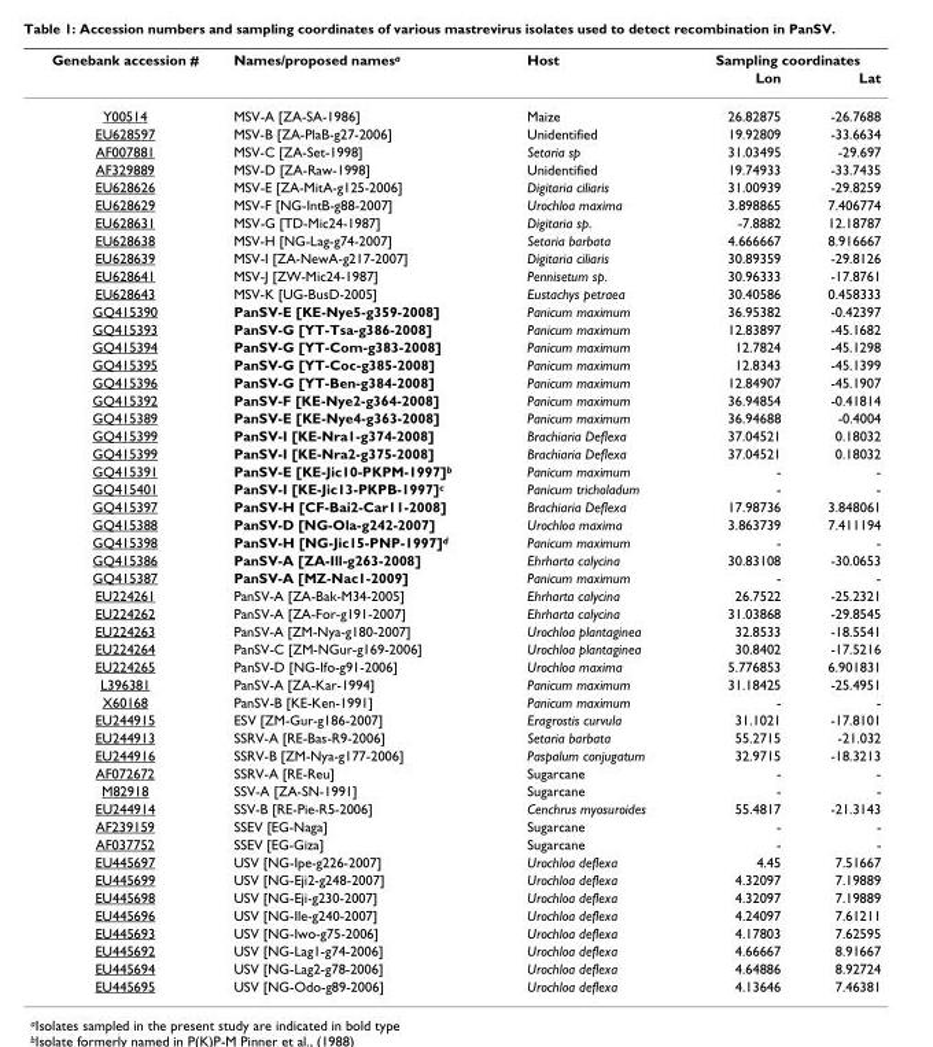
<table><thead><tr><td rowspan="2">Genebank accession #</td><td rowspan="2">Names/proposed names<sup>a</sup></td><td rowspan="2">Host</td><td colspan="2">Sampling coordinates</td></tr><tr><td>Lon</td><td>Lat</td></tr></thead><tbody><tr><td>Y00514</td><td>MSV-A [ZA-SA-1986]</td><td>Maize</td><td>26.82875</td><td>-26.7688</td></tr><tr><td>EU628597</td><td>MSV-B [ZA-PlaB-g27-2006]</td><td>Unidentified</td><td>19.92809</td><td>-33.6634</td></tr><tr><td>AF007881</td><td>MSV-C [ZA-Set-1998]</td><td>Setaria sp</td><td>31.03495</td><td>-29.697</td></tr><tr><td>AF329889</td><td>MSV-D [ZA-Raw-1998]</td><td>Unidentified</td><td>19.74933</td><td>-33.7435</td></tr><tr><td>EU628626</td><td>MSV-E [ZA-MitA-g125-2006]</td><td>Digitaria ciliaris</td><td>31.00939</td><td>-29.8259</td></tr><tr><td>EU628629</td><td>MSV-F [NG-IntB-g88-2007]</td><td>Urochloa maxima</td><td>3.898865</td><td>7.406774</td></tr><tr><td>EU628631</td><td>MSV-G [TD-Mic24-1987]</td><td>Digitaria sp.</td><td>-7.8882</td><td>12.18787</td></tr><tr><td>EU628638</td><td>MSV-H [NG-Lag-g74-2007]</td><td>Setaria barbata</td><td>4.666667</td><td>8.916667</td></tr><tr><td>EU628639</td><td>MSV-I [ZA-NewA-g217-2007]</td><td>Digitaria ciliaris</td><td>30.89359</td><td>-29.8126</td></tr><tr><td>EU628641</td><td>MSV-J [ZW-Mic24-1987]</td><td>Pennisetum sp.</td><td>30.96333</td><td>-17.8761</td></tr><tr><td>EU628643</td><td>MSV-K [UG-BusD-2005]</td><td>Eustachys petraea</td><td>30.40586</td><td>0.458333</td></tr><tr><td>GQ415390</td><td>PanSV-E [KE-Nye5-g359-2008]</td><td>Panicum maximum</td><td>36.95382</td><td>-0.42397</td></tr><tr><td>GQ415393</td><td>PanSV-G [YT-Tsa-g386-2008]</td><td>Panicum maximum</td><td>12.83897</td><td>-45.1682</td></tr><tr><td>GQ415394</td><td>PanSV-G [YT-Com-g383-2008]</td><td>Panicum maximum</td><td>12.7824</td><td>-45.1298</td></tr><tr><td>GQ415395</td><td>PanSV-G [YT-Coc-g385-2008]</td><td>Panicum maximum</td><td>12.8343</td><td>-45.1399</td></tr><tr><td>GQ415396</td><td>PanSV-G [YT-Ben-g384-2008]</td><td>Panicum maximum</td><td>12.84907</td><td>-45.1907</td></tr><tr><td>GQ415392</td><td>PanSV-F [KE-Nye2-g364-2008]</td><td>Panicum maximum</td><td>36.94854</td><td>-0.41814</td></tr><tr><td>GQ415389</td><td>PanSV-E [KE-Nye4-g363-2008]</td><td>Panicum maximum</td><td>36.94688</td><td>-0.4004</td></tr><tr><td>GQ415399</td><td>PanSV-I [KE-Nra1-g374-2008]</td><td>Brachiaria Deflexa</td><td>37.04521</td><td>0.18032</td></tr><tr><td>GQ415399</td><td>PanSV-I [KE-Nra2-g375-2008]</td><td>Brachiaria Deflexa</td><td>37.04521</td><td>0.18032</td></tr><tr><td>GQ415391</td><td>PanSV-E [KE-Jic10-PKPM-1997]<sup>b</sup></td><td>Panicum maximum</td><td>-</td><td>-</td></tr><tr><td>GQ415401</td><td>PanSV-I [KE-Jic13-PKPB-1997]<sup>c</sup></td><td>Panicum tricholadum</td><td>-</td><td>-</td></tr><tr><td>GQ415397</td><td>PanSV-H [CF-Bai2-Car11-2008]</td><td>Brachiaria Deflexa</td><td>17.98736</td><td>3.848061</td></tr><tr><td>GQ415388</td><td>PanSV-D [NG-Ola-g242-2007]</td><td>Urochloa maxima</td><td>3.863739</td><td>7.411194</td></tr><tr><td>GQ415398</td><td>PanSV-H [NG-Jic15-PNP-1997]<sup>d</sup></td><td>Panicum maximum</td><td>-</td><td>-</td></tr><tr><td>GQ415386</td><td>PanSV-A [ZA-Ill-g263-2008]</td><td>Ehrharta calycina</td><td>30.83108</td><td>-30.0653</td></tr><tr><td>GQ415387</td><td>PanSV-A [MZ-Nac1-2009]</td><td>Panicum maximum</td><td>-</td><td>-</td></tr><tr><td>EU224261</td><td>PanSV-A [ZA-Bak-M34-2005]</td><td>Ehrharta calycina</td><td>26.7522</td><td>-25.2321</td></tr><tr><td>EU224262</td><td>PanSV-A [ZA-For-g191-2007]</td><td>Ehrharta calycina</td><td>31.03868</td><td>-29.8545</td></tr><tr><td>EU224263</td><td>PanSV-A [ZM-Nya-g180-2007]</td><td>Urochloa plantaginea</td><td>32.8533</td><td>-18.5541</td></tr><tr><td>EU224264</td><td>PanSV-C [ZM-NGur-g169-2006]</td><td>Urochloa plantaginea</td><td>30.8402</td><td>-17.5216</td></tr><tr><td>EU224265</td><td>PanSV-D [NG-Ifo-g91-2006]</td><td>Urochloa maxima</td><td>5.776853</td><td>6.901831</td></tr><tr><td>L396381</td><td>PanSV-A [ZA-Kar-1994]</td><td>Panicum maximum</td><td>31.18425</td><td>-25.4951</td></tr><tr><td>X60168</td><td>PanSV-B [KE-Ken-1991]</td><td>Panicum maximum</td><td>-</td><td>-</td></tr><tr><td>EU244915</td><td>ESV [ZM-Gur-g186-2007]</td><td>Eragrostis curvula</td><td>31.1021</td><td>-17.8101</td></tr><tr><td>EU244913</td><td>SSRV-A [RE-Bas-R9-2006]</td><td>Setaria barbata</td><td>55.2715</td><td>-21.032</td></tr><tr><td>EU244916</td><td>SSRV-B [ZM-Nya-g177-2006]</td><td>Paspalum conjugatum</td><td>32.9715</td><td>-18.3213</td></tr><tr><td>AF072672</td><td>SSRV-A [RE-Reu]</td><td>Sugarcane</td><td>-</td><td>-</td></tr><tr><td>M82918</td><td>SSV-A [ZA-SN-1991]</td><td>Sugarcane</td><td>-</td><td>-</td></tr><tr><td>EU244914</td><td>SSV-B [RE-Pie-R5-2006]</td><td>Cenchrus myosuroides</td><td>55.4817</td><td>-21.3143</td></tr><tr><td>AF239159</td><td>SSEV [EG-Naga]</td><td>Sugarcane</td><td>-</td><td>-</td></tr><tr><td>AF037752</td><td>SSEV [EG-Giza]</td><td>Sugarcane</td><td>-</td><td>-</td></tr><tr><td>EU445697</td><td>USV [NG-Ipe-g226-2007]</td><td>Urochloa deflexa</td><td>4.45</td><td>7.51667</td></tr><tr><td>EU445699</td><td>USV [NG-Eji2-g248-2007]</td><td>Urochloa deflexa</td><td>4.32097</td><td>7.19889</td></tr><tr><td>EU445698</td><td>USV [NG-Eji-g230-2007]</td><td>Urochloa deflexa</td><td>4.32097</td><td>7.19889</td></tr><tr><td>EU445696</td><td>USV [NG-Ile-g240-2007]</td><td>Urochloa deflexa</td><td>4.24097</td><td>7.61211</td></tr><tr><td>EU445693</td><td>USV [NG-Iwo-g75-2006]</td><td>Urochloa deflexa</td><td>4.17803</td><td>7.62595</td></tr><tr><td>EU445692</td><td>USV [NG-Lag1-g74-2006]</td><td>Urochloa deflexa</td><td>4.66667</td><td>8.91667</td></tr><tr><td>EU445694</td><td>USV [NG-Lag2-g78-2006]</td><td>Urochloa deflexa</td><td>4.64886</td><td>8.92724</td></tr><tr><td>EU445695</td><td>USV [NG-Odo-g89-2006]</td><td>Urochloa deflexa</td><td>4.13646</td><td>7.46381</td></tr></tbody></table>